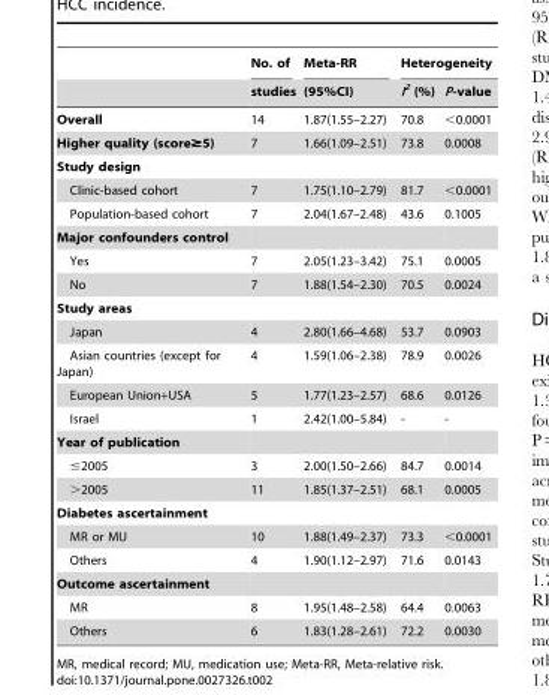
<table><thead><tr><td rowspan="2"></td><td rowspan="2">No. of studies</td><td rowspan="2">Meta-RR (95%CI)</td><td colspan="2">Heterogeneity</td></tr><tr><td>I<sup>2</sup> (%)</td><td>P-value</td></tr></thead><tbody><tr><td>Overall</td><td>14</td><td>1.87(1.55–2.27)</td><td>70.8</td><td>&lt;0.0001</td></tr><tr><td>Higher quality (score≥5)</td><td>7</td><td>1.66(1.09–2.51)</td><td>73.8</td><td>0.0008</td></tr><tr><td colspan="5">Study design</td></tr><tr><td>Clinic-based cohort</td><td>7</td><td>1.75(1.10–2.79)</td><td>81.7</td><td>&lt;0.0001</td></tr><tr><td>Population-based cohort</td><td>7</td><td>2.04(1.67–2.48)</td><td>43.6</td><td>0.1005</td></tr><tr><td colspan="5">Major confounders control</td></tr><tr><td>Yes</td><td>7</td><td>2.05(1.23–3.42)</td><td>75.1</td><td>0.0005</td></tr><tr><td>No</td><td>7</td><td>1.88(1.54–2.30)</td><td>70.5</td><td>0.0024</td></tr><tr><td colspan="5">Study areas</td></tr><tr><td>Japan</td><td>4</td><td>2.80(1.66–4.68)</td><td>53.7</td><td>0.0903</td></tr><tr><td>Asian countries (except for Japan)</td><td>4</td><td>1.59(1.06–2.38)</td><td>78.9</td><td>0.0026</td></tr><tr><td>European Union+USA</td><td>5</td><td>1.77(1.23–2.57)</td><td>68.6</td><td>0.0126</td></tr><tr><td>Israel</td><td>1</td><td>2.42(1.00–5.84)</td><td>-</td><td>-</td></tr><tr><td colspan="5">Year of publication</td></tr><tr><td>≤2005</td><td>3</td><td>2.00(1.50–2.66)</td><td>84.7</td><td>0.0014</td></tr><tr><td>&gt;2005</td><td>11</td><td>1.85(1.37–2.51)</td><td>68.1</td><td>0.0005</td></tr><tr><td colspan="5">Diabetes ascertainment</td></tr><tr><td>MR or MU</td><td>10</td><td>1.88(1.49–2.37)</td><td>73.3</td><td>&lt;0.0001</td></tr><tr><td>Others</td><td>4</td><td>1.90(1.12–2.97)</td><td>71.6</td><td>0.0143</td></tr><tr><td colspan="5">Outcome ascertainment</td></tr><tr><td>MR</td><td>8</td><td>1.95(1.48–2.58)</td><td>64.4</td><td>0.0063</td></tr><tr><td>Others</td><td>6</td><td>1.83(1.28–2.61)</td><td>72.2</td><td>0.0030</td></tr></tbody></table>